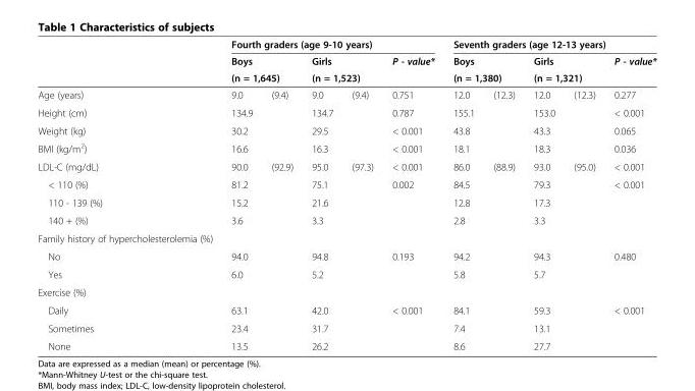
<table><thead><tr><td rowspan="4">Age (years)</td><td colspan="5">Fourth graders (age 9-10 years)</td><td colspan="5">Seventh graders (age 12-13 years)</td></tr><tr><td rowspan="2" colspan="2">Boys (n = 1,645)</td><td rowspan="2" colspan="2">Girls (n = 1,523)</td><td rowspan="3">P - value* 0.751</td><td rowspan="2" colspan="2">Boys (n = 1,380)</td><td rowspan="2" colspan="2">Girls (n = 1,321)</td><td rowspan="3">P - value* 0.277</td></tr><tr></tr><tr><td>9.0</td><td>(9.4)</td><td>9.0</td><td>(9.4)</td><td>12.0</td><td>(12.3)</td><td>12.0</td><td>(12.3)</td></tr></thead><tbody><tr><td>Height (cm)</td><td>134.9</td><td></td><td>134.7</td><td></td><td>0.787</td><td>155.1</td><td></td><td>153.0</td><td></td><td>&lt; 0.001</td></tr><tr><td>Weight (kg)</td><td>30.2</td><td></td><td>29.5</td><td></td><td>&lt; 0.001</td><td>43.8</td><td></td><td>43.3</td><td></td><td>0.065</td></tr><tr><td>BMI (kg/m<sup>2</sup>)</td><td>16.6</td><td></td><td>16.3</td><td></td><td>&lt; 0.001</td><td>18.1</td><td></td><td>18.3</td><td></td><td>0.036</td></tr><tr><td>LDL-C (mg/dL)</td><td>90.0</td><td>(92.9)</td><td>95.0</td><td>(97.3)</td><td>&lt; 0.001</td><td>86.0</td><td>(88.9)</td><td>93.0</td><td>(95.0)</td><td>&lt; 0.001</td></tr><tr><td>&lt; 110 (%)</td><td>81.2</td><td></td><td>75.1</td><td></td><td>0.002</td><td>84.5</td><td></td><td>79.3</td><td></td><td>&lt; 0.001</td></tr><tr><td>110 - 139 (%)</td><td>15.2</td><td></td><td>21.6</td><td></td><td></td><td>12.8</td><td></td><td>17.3</td><td></td><td></td></tr><tr><td>140 + (%)</td><td>3.6</td><td></td><td>3.3</td><td></td><td></td><td>2.8</td><td></td><td>3.3</td><td></td><td></td></tr><tr><td colspan="11">Family history of hypercholesterolemia (%)</td></tr><tr><td>No</td><td>94.0</td><td></td><td>94.8</td><td></td><td>0.193</td><td>94.2</td><td></td><td>94.3</td><td></td><td>0.480</td></tr><tr><td>Yes</td><td>6.0</td><td></td><td>5.2</td><td></td><td></td><td>5.8</td><td></td><td>5.7</td><td></td><td></td></tr><tr><td colspan="11">Exercise (%)</td></tr><tr><td>Daily</td><td>63.1</td><td></td><td>42.0</td><td></td><td>&lt; 0.001</td><td>84.1</td><td></td><td>59.3</td><td></td><td>&lt; 0.001</td></tr><tr><td>Sometimes</td><td>23.4</td><td></td><td>31.7</td><td></td><td></td><td>7.4</td><td></td><td>13.1</td><td></td><td></td></tr><tr><td>None</td><td>13.5</td><td></td><td>26.2</td><td></td><td></td><td>8.6</td><td></td><td>27.7</td><td></td><td></td></tr></tbody></table>